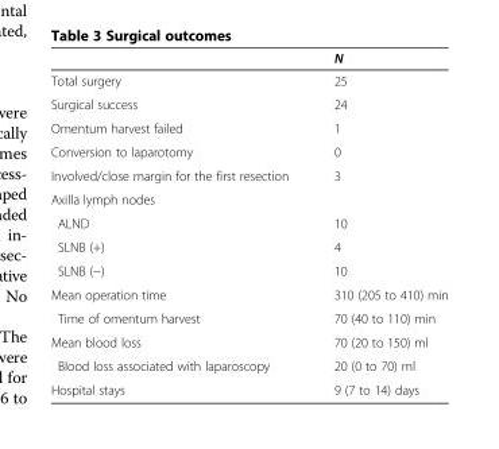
<table><thead><tr><td></td><td>N</td></tr></thead><tbody><tr><td>Total surgery</td><td>25</td></tr><tr><td>Surgical success</td><td>24</td></tr><tr><td>Omentum harvest failed</td><td>1</td></tr><tr><td>Conversion to laparotomy</td><td>0</td></tr><tr><td>Involved/close margin for the first resection</td><td>3</td></tr><tr><td colspan="2">Axilla lymph nodes</td></tr><tr><td>ALND</td><td>10</td></tr><tr><td>SLNB (+)</td><td>4</td></tr><tr><td>SLNB (−)</td><td>10</td></tr><tr><td>Mean operation time</td><td>310 (205 to 410) min</td></tr><tr><td>Time of omentum harvest</td><td>70 (40 to 110) min</td></tr><tr><td>Mean blood loss</td><td>70 (20 to 150) ml</td></tr><tr><td>Blood loss associated with laparoscopy</td><td>20 (0 to 70) ml</td></tr><tr><td>Hospital stays</td><td>9 (7 to 14) days</td></tr></tbody></table>